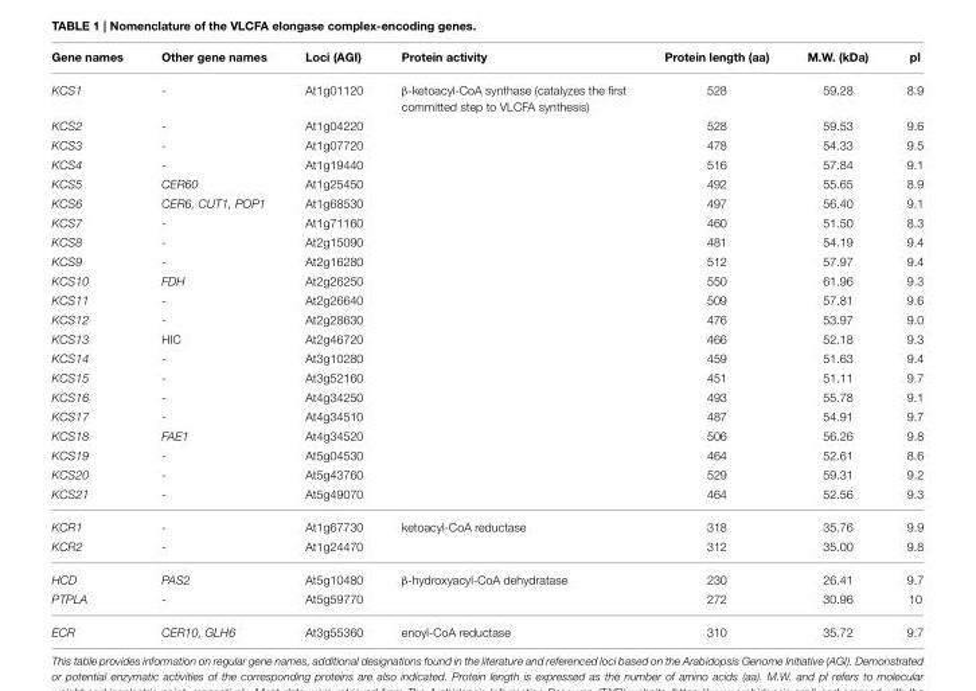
<table><thead><tr><td>Gene names</td><td>Other gene names</td><td>Loci (AGI)</td><td>Protein activity</td><td>Protein length (aa)</td><td>M.W. (kDa)</td><td>pI</td></tr></thead><tbody><tr><td>KCS1</td><td>-</td><td>At1g01120</td><td>β-ketoacyl-CoA synthase (catalyzes the first committed step to VLCFA synthesis)</td><td>528</td><td>59.28</td><td>8.9</td></tr><tr><td>KCS2</td><td>-</td><td>At1g04220</td><td></td><td>528</td><td>59.53</td><td>9.6</td></tr><tr><td>KCS3</td><td>-</td><td>At1g07720</td><td></td><td>478</td><td>54.33</td><td>9.5</td></tr><tr><td>KCS4</td><td>-</td><td>At1g19440</td><td></td><td>516</td><td>57.84</td><td>9.1</td></tr><tr><td>KCS5</td><td>CER60</td><td>At1g25450</td><td></td><td>492</td><td>55.65</td><td>8.9</td></tr><tr><td>KCS6</td><td>CER6, CUT1, POP1</td><td>At1g68530</td><td></td><td>497</td><td>56.40</td><td>9.1</td></tr><tr><td>KCS7</td><td>-</td><td>At1g71160</td><td></td><td>460</td><td>51.50</td><td>8.3</td></tr><tr><td>KCS8</td><td>-</td><td>At2g15090</td><td></td><td>481</td><td>54.19</td><td>9.4</td></tr><tr><td>KCS9</td><td>-</td><td>At2g16280</td><td></td><td>512</td><td>57.97</td><td>9.4</td></tr><tr><td>KCS10</td><td>FDH</td><td>At2g26250</td><td></td><td>550</td><td>61.96</td><td>9.3</td></tr><tr><td>KCS11</td><td>-</td><td>At2g26640</td><td></td><td>509</td><td>57.81</td><td>9.6</td></tr><tr><td>KCS12</td><td>-</td><td>At2g28630</td><td></td><td>476</td><td>53.97</td><td>9.0</td></tr><tr><td>KCS13</td><td>HIC</td><td>At2g46720</td><td></td><td>466</td><td>52.18</td><td>9.3</td></tr><tr><td>KCS14</td><td>-</td><td>At3g10280</td><td></td><td>459</td><td>51.63</td><td>9.4</td></tr><tr><td>KCS15</td><td>-</td><td>At3g52160</td><td></td><td>451</td><td>51.11</td><td>9.7</td></tr><tr><td>KCS16</td><td>-</td><td>At4g34250</td><td></td><td>493</td><td>55.78</td><td>9.1</td></tr><tr><td>KCS17</td><td>-</td><td>At4g34510</td><td></td><td>487</td><td>54.91</td><td>9.7</td></tr><tr><td>KCS18</td><td>FAE1</td><td>At4g34520</td><td></td><td>506</td><td>56.26</td><td>9.8</td></tr><tr><td>KCS19</td><td>-</td><td>At5g04530</td><td></td><td>464</td><td>52.61</td><td>8.6</td></tr><tr><td>KCS20</td><td>-</td><td>At5g43760</td><td></td><td>529</td><td>59.31</td><td>9.2</td></tr><tr><td>KCS21</td><td>-</td><td>At5g49070</td><td></td><td>464</td><td>52.56</td><td>9.3</td></tr><tr><td>KCR1</td><td>-</td><td>At1g67730</td><td>ketoacyl-CoA reductase</td><td>318</td><td>35.76</td><td>9.9</td></tr><tr><td>KCR2</td><td>-</td><td>At1g24470</td><td></td><td>312</td><td>35.00</td><td>9.8</td></tr><tr><td>HCD</td><td>PAS2</td><td>At5g10480</td><td>β-hydroxyacyl-CoA dehydratase</td><td>230</td><td>26.41</td><td>9.7</td></tr><tr><td>PTPLA</td><td>-</td><td>At5g59770</td><td></td><td>272</td><td>30.96</td><td>10</td></tr><tr><td>ECR</td><td>CER10, GLH6</td><td>At3g55360</td><td>enoyl-CoA reductase</td><td>310</td><td>35.72</td><td>9.7</td></tr></tbody></table>